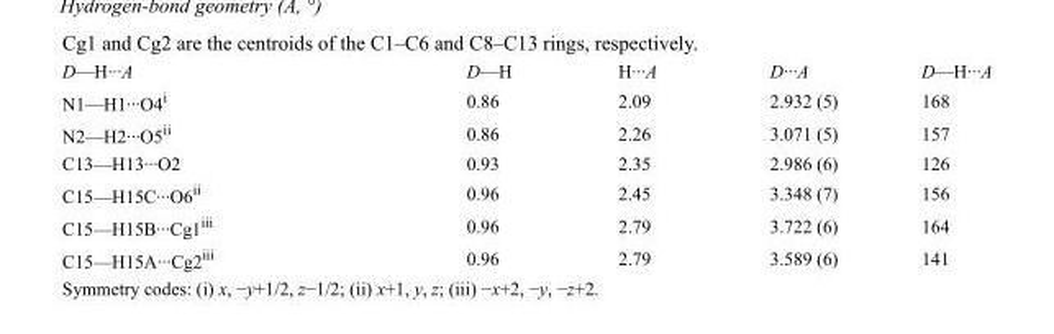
<table><tbody><tr><td>D—H···A</td><td>D—H</td><td>H···A</td><td>D···A</td><td>D—H···A</td></tr><tr><td>N1—H1···O4<sup>i</sup></td><td>0.86</td><td>2.09</td><td>2.932 (5)</td><td>168</td></tr><tr><td>N2—H2···O5<sup>ii</sup></td><td>0.86</td><td>2.26</td><td>3.071 (5)</td><td>157</td></tr><tr><td>C13—H13···O2</td><td>0.93</td><td>2.35</td><td>2.986 (6)</td><td>126</td></tr><tr><td>C15—H15C···O6<sup>ii</sup></td><td>0.96</td><td>2.45</td><td>3.348 (7)</td><td>156</td></tr><tr><td>C15—H15B···Cg1<sup>iii</sup></td><td>0.96</td><td>2.79</td><td>3.722 (6)</td><td>164</td></tr><tr><td>C15—H15A···Cg2<sup>iii</sup></td><td>0.96</td><td>2.79</td><td>3.589 (6)</td><td>141</td></tr></tbody></table>